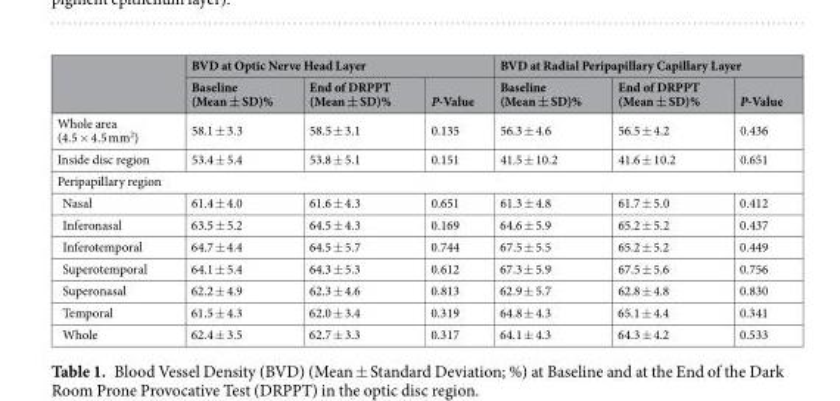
<table><thead><tr><td rowspan="2"></td><td colspan="3">BVD at Optic Nerve Head Layer</td><td colspan="3">BVD at Radial Peripapillary Capillary Layer</td></tr><tr><td>Baseline (Mean ± SD)%</td><td>End of DRPPT (Mean ± SD)%</td><td>P-Value</td><td>Baseline (Mean ± SD)%</td><td>End of DRPPT (Mean ± SD)%</td><td>P-Value</td></tr></thead><tbody><tr><td>Whole area (4.5 × 4.5 mm<sup>2</sup>)</td><td>58.1 ± 3.3</td><td>58.5 ± 3.1</td><td>0.135</td><td>56.3 ± 4.6</td><td>56.5 ± 4.2</td><td>0.436</td></tr><tr><td>Inside disc region</td><td>53.4 ± 5.4</td><td>53.8 ± 5.1</td><td>0.151</td><td>41.5 ± 10.2</td><td>41.6 ± 10.2</td><td>0.651</td></tr><tr><td colspan="7">Peripapillary region</td></tr><tr><td>Nasal</td><td>61.4 ± 4.0</td><td>61.6 ± 4.3</td><td>0.651</td><td>61.3 ± 4.8</td><td>61.7 ± 5.0</td><td>0.412</td></tr><tr><td>Inferonasal</td><td>63.5 ± 5.2</td><td>64.5 ± 4.3</td><td>0.169</td><td>64.6 ± 5.9</td><td>65.2 ± 5.2</td><td>0.437</td></tr><tr><td>Inferotemporal</td><td>64.7 ± 4.4</td><td>64.5 ± 5.7</td><td>0.744</td><td>67.5 ± 5.5</td><td>65.2 ± 5.2</td><td>0.449</td></tr><tr><td>Superotemporal</td><td>64.1 ± 5.4</td><td>64.3 ± 5.3</td><td>0.612</td><td>67.3 ± 5.9</td><td>67.5 ± 5.6</td><td>0.756</td></tr><tr><td>Superonasal</td><td>62.2 ± 4.9</td><td>62.3 ± 4.6</td><td>0.813</td><td>62.9 ± 5.7</td><td>62.8 ± 4.8</td><td>0.830</td></tr><tr><td>Temporal</td><td>61.5 ± 4.3</td><td>62.0 ± 3.4</td><td>0.319</td><td>64.8 ± 4.3</td><td>65.1 ± 4.4</td><td>0.341</td></tr><tr><td>Whole</td><td>62.4 ± 3.5</td><td>62.7 ± 3.3</td><td>0.317</td><td>64.1 ± 4.3</td><td>64.3 ± 4.2</td><td>0.533</td></tr></tbody></table>